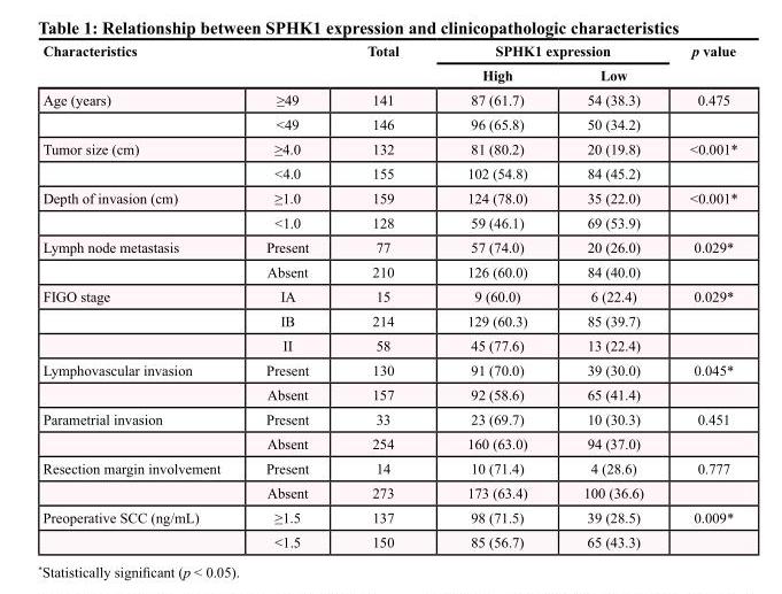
<table><thead><tr><td rowspan="2" colspan="2">Characteristics</td><td rowspan="3">Total 141</td><td colspan="2">SPHK1 expression</td><td rowspan="3">p value 0.475</td></tr><tr><td rowspan="2">High 87 (61.7)</td><td rowspan="2">Low 54 (38.3)</td></tr><tr><td>Age (years)</td><td>≥49</td></tr></thead><tbody><tr><td></td><td>&lt;49</td><td>146</td><td>96 (65.8)</td><td>50 (34.2)</td><td></td></tr><tr><td rowspan="2">Tumor size (cm)</td><td>≥4.0</td><td>132</td><td>81 (80.2)</td><td>20 (19.8)</td><td>&lt;0.001*</td></tr><tr><td>&lt;4.0</td><td>155</td><td>102 (54.8)</td><td>84 (45.2)</td><td></td></tr><tr><td rowspan="2">Depth of invasion (cm)</td><td>≥1.0</td><td>159</td><td>124 (78.0)</td><td>35 (22.0)</td><td>&lt;0.001*</td></tr><tr><td>&lt;1.0</td><td>128</td><td>59 (46.1)</td><td>69 (53.9)</td><td></td></tr><tr><td rowspan="2">Lymph node metastasis</td><td>Present</td><td>77</td><td>57 (74.0)</td><td>20 (26.0)</td><td>0.029*</td></tr><tr><td>Absent</td><td>210</td><td>126 (60.0)</td><td>84 (40.0)</td><td></td></tr><tr><td rowspan="3">FIGO stage</td><td>IA</td><td>15</td><td>9 (60.0)</td><td>6 (22.4)</td><td>0.029*</td></tr><tr><td>IB</td><td>214</td><td>129 (60.3)</td><td>85 (39.7)</td><td></td></tr><tr><td>II</td><td>58</td><td>45 (77.6)</td><td>13 (22.4)</td><td></td></tr><tr><td rowspan="2">Lymphovascular invasion</td><td>Present</td><td>130</td><td>91 (70.0)</td><td>39 (30.0)</td><td>0.045*</td></tr><tr><td>Absent</td><td>157</td><td>92 (58.6)</td><td>65 (41.4)</td><td></td></tr><tr><td rowspan="2">Parametrial invasion</td><td>Present</td><td>33</td><td>23 (69.7)</td><td>10 (30.3)</td><td>0.451</td></tr><tr><td>Absent</td><td>254</td><td>160 (63.0)</td><td>94 (37.0)</td><td></td></tr><tr><td rowspan="2">Resection margin involvement</td><td>Present</td><td>14</td><td>10 (71.4)</td><td>4 (28.6)</td><td>0.777</td></tr><tr><td>Absent</td><td>273</td><td>173 (63.4)</td><td>100 (36.6)</td><td></td></tr><tr><td rowspan="2">Preoperative SCC (ng/mL)</td><td>≥1.5</td><td>137</td><td>98 (71.5)</td><td>39 (28.5)</td><td>0.009*</td></tr><tr><td>&lt;1.5</td><td>150</td><td>85 (56.7)</td><td>65 (43.3)</td><td></td></tr></tbody></table>